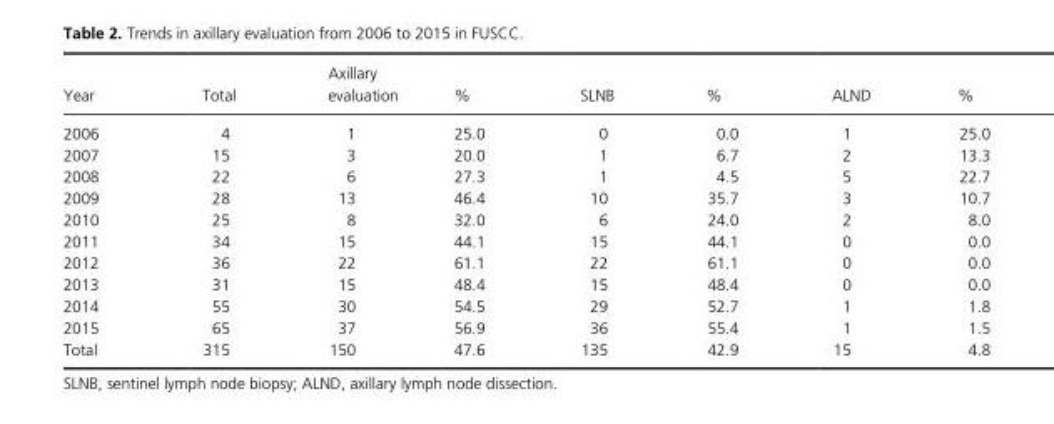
<table><thead><tr><td>Year</td><td>Total</td><td>Axillary evaluation</td><td>%</td><td>SLNB</td><td>%</td><td>ALND</td><td>%</td></tr></thead><tbody><tr><td>2006</td><td>4</td><td>1</td><td>25.0</td><td>0</td><td>0.0</td><td>1</td><td>25.0</td></tr><tr><td>2007</td><td>15</td><td>3</td><td>20.0</td><td>1</td><td>6.7</td><td>2</td><td>13.3</td></tr><tr><td>2008</td><td>22</td><td>6</td><td>27.3</td><td>1</td><td>4.5</td><td>5</td><td>22.7</td></tr><tr><td>2009</td><td>28</td><td>13</td><td>46.4</td><td>10</td><td>35.7</td><td>3</td><td>10.7</td></tr><tr><td>2010</td><td>25</td><td>8</td><td>32.0</td><td>6</td><td>24.0</td><td>2</td><td>8.0</td></tr><tr><td>2011</td><td>34</td><td>15</td><td>44.1</td><td>15</td><td>44.1</td><td>0</td><td>0.0</td></tr><tr><td>2012</td><td>36</td><td>22</td><td>61.1</td><td>22</td><td>61.1</td><td>0</td><td>0.0</td></tr><tr><td>2013</td><td>31</td><td>15</td><td>48.4</td><td>15</td><td>48.4</td><td>0</td><td>0.0</td></tr><tr><td>2014</td><td>55</td><td>30</td><td>54.5</td><td>29</td><td>52.7</td><td>1</td><td>1.8</td></tr><tr><td>2015</td><td>65</td><td>37</td><td>56.9</td><td>36</td><td>55.4</td><td>1</td><td>1.5</td></tr><tr><td>Total</td><td>315</td><td>150</td><td>47.6</td><td>135</td><td>42.9</td><td>15</td><td>4.8</td></tr></tbody></table>